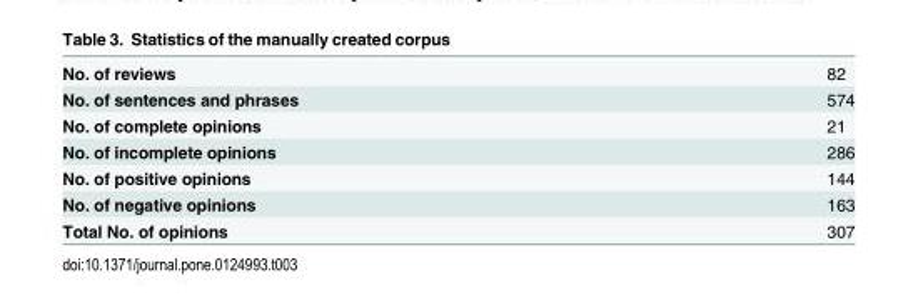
<table><tbody><tr><td>No. of reviews</td><td>82</td></tr><tr><td>No. of sentences and phrases</td><td>574</td></tr><tr><td>No. of complete opinions</td><td>21</td></tr><tr><td>No. of incomplete opinions</td><td>286</td></tr><tr><td>No. of positive opinions</td><td>144</td></tr><tr><td>No. of negative opinions</td><td>163</td></tr><tr><td>Total No. of opinions</td><td>307</td></tr></tbody></table>